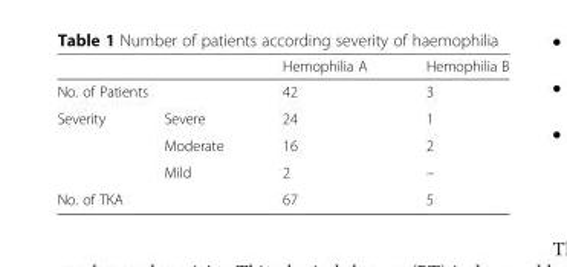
<table><thead><tr><td></td><td></td><td>Hemophilia A</td><td>Hemophilia B</td></tr></thead><tbody><tr><td colspan="2">No. of Patients</td><td>42</td><td>3</td></tr><tr><td rowspan="3">Severity</td><td>Severe</td><td>24</td><td>1</td></tr><tr><td>Moderate</td><td>16</td><td>2</td></tr><tr><td>Mild</td><td>2</td><td>–</td></tr><tr><td colspan="2">No. of TKA</td><td>67</td><td>5</td></tr></tbody></table>